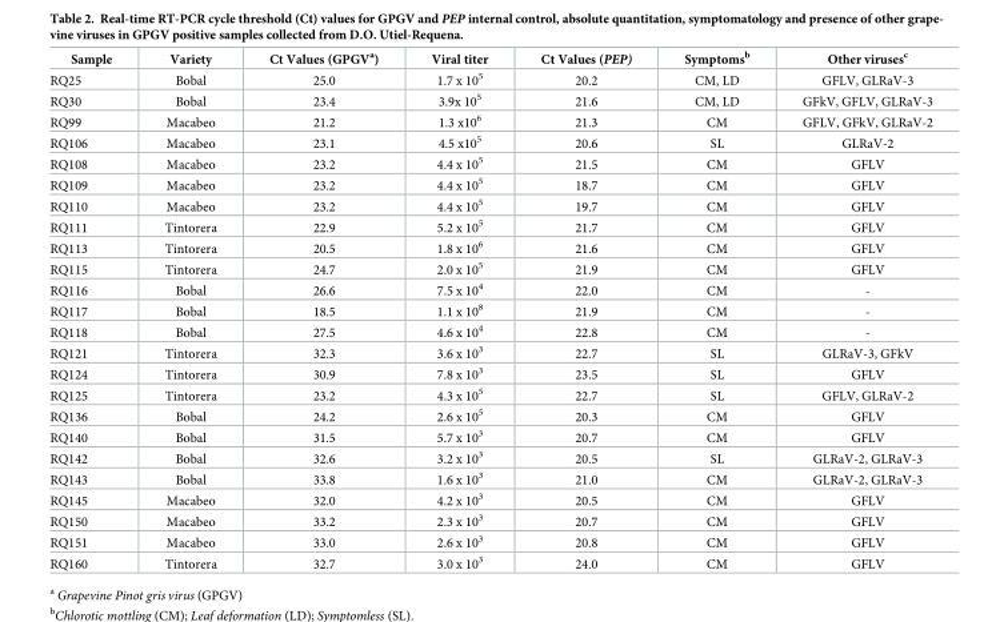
<table><thead><tr><td>Sample</td><td>Variety</td><td>Ct Values (GPGV<sup>a</sup>)</td><td>Viral titer</td><td>Ct Values (PEP)</td><td>Symptoms<sup>b</sup></td><td>Other viruses<sup>c</sup></td></tr></thead><tbody><tr><td>RQ25</td><td>Bobal</td><td>25.0</td><td>1.7 x 10<sup>5</sup></td><td>20.2</td><td>CM, LD</td><td>GFLV, GLRaV-3</td></tr><tr><td>RQ30</td><td>Bobal</td><td>23.4</td><td>3.9x 10<sup>5</sup></td><td>21.6</td><td>CM, LD</td><td>GFkV, GFLV, GLRaV-3</td></tr><tr><td>RQ99</td><td>Macabeo</td><td>21.2</td><td>1.3 x10<sup>6</sup></td><td>21.3</td><td>CM</td><td>GFLV, GFkV, GLRaV-2</td></tr><tr><td>RQ106</td><td>Macabeo</td><td>23.1</td><td>4.5 x10<sup>5</sup></td><td>20.6</td><td>SL</td><td>GLRaV-2</td></tr><tr><td>RQ108</td><td>Macabeo</td><td>23.2</td><td>4.4 x 10<sup>5</sup></td><td>21.5</td><td>CM</td><td>GFLV</td></tr><tr><td>RQ109</td><td>Macabeo</td><td>23.2</td><td>4.4 x 10<sup>5</sup></td><td>18.7</td><td>CM</td><td>GFLV</td></tr><tr><td>RQ110</td><td>Macabeo</td><td>23.2</td><td>4.4 x 10<sup>5</sup></td><td>19.7</td><td>CM</td><td>GFLV</td></tr><tr><td>RQ111</td><td>Tintorera</td><td>22.9</td><td>5.2 x 10<sup>5</sup></td><td>21.7</td><td>CM</td><td>GFLV</td></tr><tr><td>RQ113</td><td>Tintorera</td><td>20.5</td><td>1.8 x 10<sup>6</sup></td><td>21.6</td><td>CM</td><td>GFLV</td></tr><tr><td>RQ115</td><td>Tintorera</td><td>24.7</td><td>2.0 x 10<sup>5</sup></td><td>21.9</td><td>CM</td><td>GFLV</td></tr><tr><td>RQ116</td><td>Bobal</td><td>26.6</td><td>7.5 x 10<sup>4</sup></td><td>22.0</td><td>CM</td><td>-</td></tr><tr><td>RQ117</td><td>Bobal</td><td>18.5</td><td>1.1 x 10<sup>8</sup></td><td>21.9</td><td>CM</td><td>-</td></tr><tr><td>RQ118</td><td>Bobal</td><td>27.5</td><td>4.6 x 10<sup>4</sup></td><td>22.8</td><td>CM</td><td>-</td></tr><tr><td>RQ121</td><td>Tintorera</td><td>32.3</td><td>3.6 x 10<sup>3</sup></td><td>22.7</td><td>SL</td><td>GLRaV-3, GFkV</td></tr><tr><td>RQ124</td><td>Tintorera</td><td>30.9</td><td>7.8 x 10<sup>3</sup></td><td>23.5</td><td>SL</td><td>GFLV</td></tr><tr><td>RQ125</td><td>Tintorera</td><td>23.2</td><td>4.3 x 10<sup>5</sup></td><td>22.7</td><td>SL</td><td>GFLV, GLRaV-2</td></tr><tr><td>RQ136</td><td>Bobal</td><td>24.2</td><td>2.6 x 10<sup>5</sup></td><td>20.3</td><td>CM</td><td>GFLV</td></tr><tr><td>RQ140</td><td>Bobal</td><td>31.5</td><td>5.7 x 10<sup>3</sup></td><td>20.7</td><td>CM</td><td>GFLV</td></tr><tr><td>RQ142</td><td>Bobal</td><td>32.6</td><td>3.2 x 10<sup>3</sup></td><td>20.5</td><td>SL</td><td>GLRaV-2, GLRaV-3</td></tr><tr><td>RQ143</td><td>Bobal</td><td>33.8</td><td>1.6 x 10<sup>3</sup></td><td>21.0</td><td>CM</td><td>GLRaV-2, GLRaV-3</td></tr><tr><td>RQ145</td><td>Macabeo</td><td>32.0</td><td>4.2 x 10<sup>3</sup></td><td>20.5</td><td>CM</td><td>GFLV</td></tr><tr><td>RQ150</td><td>Macabeo</td><td>33.2</td><td>2.3 x 10<sup>3</sup></td><td>20.7</td><td>CM</td><td>GFLV</td></tr><tr><td>RQ151</td><td>Macabeo</td><td>33.0</td><td>2.6 x 10<sup>3</sup></td><td>20.8</td><td>CM</td><td>GFLV</td></tr><tr><td>RQ160</td><td>Tintorera</td><td>32.7</td><td>3.0 x 10<sup>3</sup></td><td>24.0</td><td>CM</td><td>GFLV</td></tr></tbody></table>